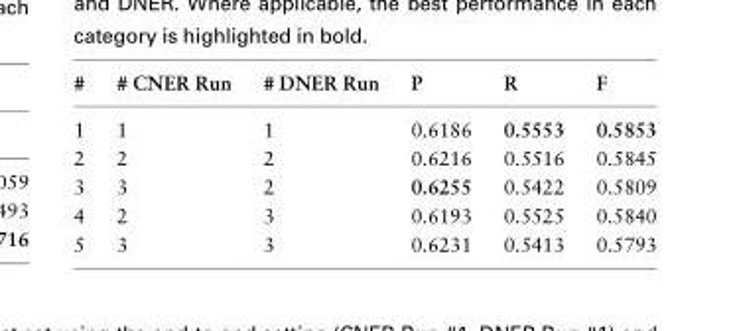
<table><thead><tr><td>#</td><td># CNER Run</td><td># DNER Run</td><td>P</td><td>R</td><td>F</td></tr></thead><tbody><tr><td>1</td><td>1</td><td>1</td><td>0.6186</td><td>0.5553</td><td>0.5853</td></tr><tr><td>2</td><td>2</td><td>2</td><td>0.6216</td><td>0.5516</td><td>0.5845</td></tr><tr><td>3</td><td>3</td><td>2</td><td>0.6255</td><td>0.5422</td><td>0.5809</td></tr><tr><td>4</td><td>2</td><td>3</td><td>0.6193</td><td>0.5525</td><td>0.5840</td></tr><tr><td>5</td><td>3</td><td>3</td><td>0.6231</td><td>0.5413</td><td>0.5793</td></tr></tbody></table>